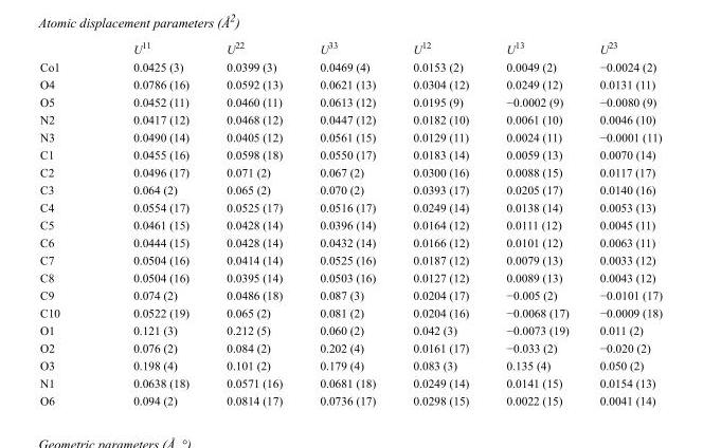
<table><thead><tr><td></td><td>U<sup>11</sup></td><td>U<sup>22</sup></td><td>U<sup>33</sup></td><td>U<sup>12</sup></td><td>U<sup>13</sup></td><td>U<sup>23</sup></td></tr></thead><tbody><tr><td>Co1</td><td>0.0425 (3)</td><td>0.0399 (3)</td><td>0.0469 (4)</td><td>0.0153 (2)</td><td>0.0049 (2)</td><td>−0.0024 (2)</td></tr><tr><td>O4</td><td>0.0786 (16)</td><td>0.0592 (13)</td><td>0.0621 (13)</td><td>0.0304 (12)</td><td>0.0249 (12)</td><td>0.0131 (11)</td></tr><tr><td>O5</td><td>0.0452 (11)</td><td>0.0460 (11)</td><td>0.0613 (12)</td><td>0.0195 (9)</td><td>−0.0002 (9)</td><td>−0.0080 (9)</td></tr><tr><td>N2</td><td>0.0417 (12)</td><td>0.0468 (12)</td><td>0.0447 (12)</td><td>0.0182 (10)</td><td>0.0061 (10)</td><td>0.0046 (10)</td></tr><tr><td>N3</td><td>0.0490 (14)</td><td>0.0405 (12)</td><td>0.0561 (15)</td><td>0.0129 (11)</td><td>0.0024 (11)</td><td>−0.0001 (11)</td></tr><tr><td>C1</td><td>0.0455 (16)</td><td>0.0598 (18)</td><td>0.0550 (17)</td><td>0.0183 (14)</td><td>0.0059 (13)</td><td>0.0070 (14)</td></tr><tr><td>C2</td><td>0.0496 (17)</td><td>0.071 (2)</td><td>0.067 (2)</td><td>0.0300 (16)</td><td>0.0088 (15)</td><td>0.0117 (17)</td></tr><tr><td>C3</td><td>0.064 (2)</td><td>0.065 (2)</td><td>0.070 (2)</td><td>0.0393 (17)</td><td>0.0205 (17)</td><td>0.0140 (16)</td></tr><tr><td>C4</td><td>0.0554 (17)</td><td>0.0525 (17)</td><td>0.0516 (17)</td><td>0.0249 (14)</td><td>0.0138 (14)</td><td>0.0053 (13)</td></tr><tr><td>C5</td><td>0.0461 (15)</td><td>0.0428 (14)</td><td>0.0396 (14)</td><td>0.0164 (12)</td><td>0.0111 (12)</td><td>0.0045 (11)</td></tr><tr><td>C6</td><td>0.0444 (15)</td><td>0.0428 (14)</td><td>0.0432 (14)</td><td>0.0166 (12)</td><td>0.0101 (12)</td><td>0.0063 (11)</td></tr><tr><td>C7</td><td>0.0504 (16)</td><td>0.0414 (14)</td><td>0.0525 (16)</td><td>0.0187 (12)</td><td>0.0079 (13)</td><td>0.0033 (12)</td></tr><tr><td>C8</td><td>0.0504 (16)</td><td>0.0395 (14)</td><td>0.0503 (16)</td><td>0.0127 (12)</td><td>0.0089 (13)</td><td>0.0043 (12)</td></tr><tr><td>C9</td><td>0.074 (2)</td><td>0.0486 (18)</td><td>0.087 (3)</td><td>0.0204 (17)</td><td>−0.005 (2)</td><td>−0.0101 (17)</td></tr><tr><td>C10</td><td>0.0522 (19)</td><td>0.065 (2)</td><td>0.081 (2)</td><td>0.0204 (16)</td><td>−0.0068 (17)</td><td>−0.0009 (18)</td></tr><tr><td>O1</td><td>0.121 (3)</td><td>0.212 (5)</td><td>0.060 (2)</td><td>0.042 (3)</td><td>−0.0073 (19)</td><td>0.011 (2)</td></tr><tr><td>O2</td><td>0.076 (2)</td><td>0.084 (2)</td><td>0.202 (4)</td><td>0.0161 (17)</td><td>−0.033 (2)</td><td>−0.020 (2)</td></tr><tr><td>O3</td><td>0.198 (4)</td><td>0.101 (2)</td><td>0.179 (4)</td><td>0.083 (3)</td><td>0.135 (4)</td><td>0.050 (2)</td></tr><tr><td>N1</td><td>0.0638 (18)</td><td>0.0571 (16)</td><td>0.0681 (18)</td><td>0.0249 (14)</td><td>0.0141 (15)</td><td>0.0154 (13)</td></tr><tr><td>O6</td><td>0.094 (2)</td><td>0.0814 (17)</td><td>0.0736 (17)</td><td>0.0298 (15)</td><td>0.0022 (15)</td><td>0.0041 (14)</td></tr></tbody></table>